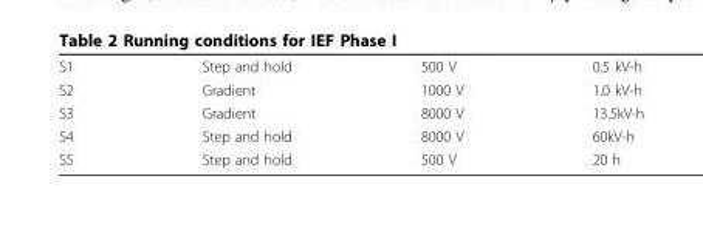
<table><tbody><tr><td>S1</td><td>Step and hold</td><td>500 V</td><td>0.5 kV-h</td></tr><tr><td>S2</td><td>Gradient</td><td>1000 V</td><td>1.0 kV-h</td></tr><tr><td>S3</td><td>Gradient</td><td>8000 V</td><td>13.5kV-h</td></tr><tr><td>S4</td><td>Step and hold</td><td>8000 V</td><td>60kV-h</td></tr><tr><td>S5</td><td>Step and hold</td><td>500 V</td><td>20 h</td></tr></tbody></table>